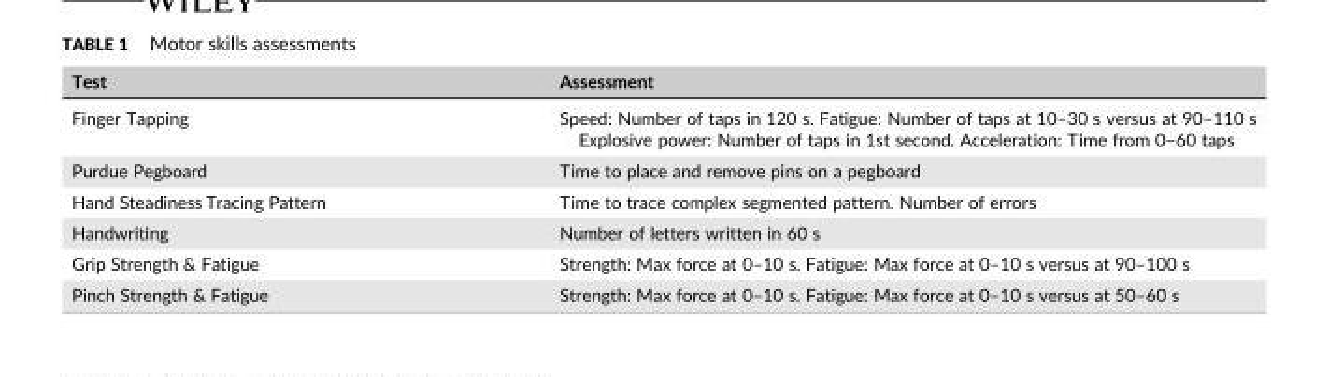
<table><thead><tr><td>Test</td><td>Assessment</td></tr></thead><tbody><tr><td>Finger Tapping</td><td>Speed: Number of taps in 120 s. Fatigue: Number of taps at 10–30 s versus at 90–110 s Explosive power: Number of taps in 1st second. Acceleration: Time from 0–60 taps</td></tr><tr><td>Purdue Pegboard</td><td>Time to place and remove pins on a pegboard</td></tr><tr><td>Hand Steadiness Tracing Pattern</td><td>Time to trace complex segmented pattern. Number of errors</td></tr><tr><td>Handwriting</td><td>Number of letters written in 60 s</td></tr><tr><td>Grip Strength &amp; Fatigue</td><td>Strength: Max force at 0–10 s. Fatigue: Max force at 0–10 s versus at 90–100 s</td></tr><tr><td>Pinch Strength &amp; Fatigue</td><td>Strength: Max force at 0–10 s. Fatigue: Max force at 0–10 s versus at 50–60 s</td></tr></tbody></table>